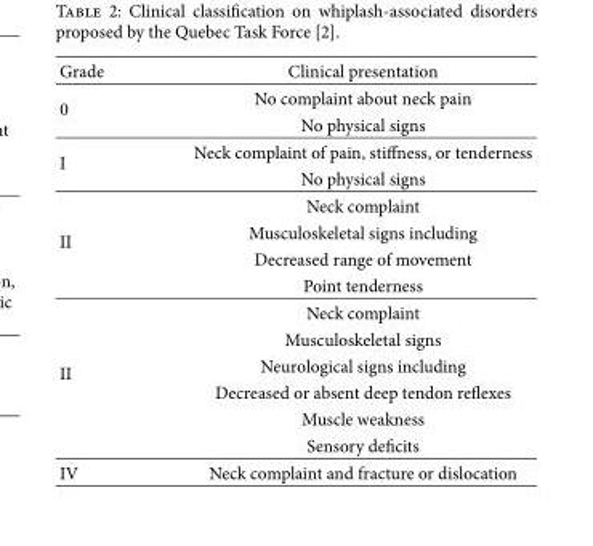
<table><thead><tr><td>Grade</td><td>Clinical presentation</td></tr></thead><tbody><tr><td rowspan="2">0</td><td>No complaint about neck pain</td></tr><tr><td>No physical signs</td></tr><tr><td rowspan="2">I</td><td>Neck complaint of pain, stiffness, or tenderness</td></tr><tr><td>No physical signs</td></tr><tr><td rowspan="4">II</td><td>Neck complaint</td></tr><tr><td>Musculoskeletal signs including</td></tr><tr><td>Decreased range of movement</td></tr><tr><td>Point tenderness</td></tr><tr><td rowspan="6">II</td><td>Neck complaint</td></tr><tr><td>Musculoskeletal signs</td></tr><tr><td>Neurological signs including</td></tr><tr><td>Decreased or absent deep tendon reflexes</td></tr><tr><td>Muscle weakness</td></tr><tr><td>Sensory deficits</td></tr><tr><td>IV</td><td>Neck complaint and fracture or dislocation</td></tr></tbody></table>